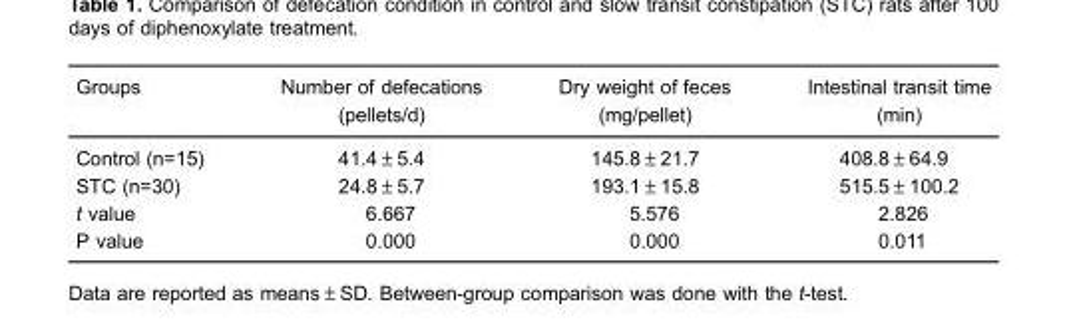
<table><thead><tr><td>Groups</td><td>Number of defecations (pellets/d)</td><td>Dry weight of feces (mg/pellet)</td><td>Intestinal transit time (min)</td></tr></thead><tbody><tr><td>Control (n=15)</td><td>41.4±5.4</td><td>145.8±21.7</td><td>408.8±64.9</td></tr><tr><td>STC (n=30)</td><td>24.8±5.7</td><td>193.1±15.8</td><td>515.5±100.2</td></tr><tr><td>t value</td><td>6.667</td><td>5.576</td><td>2.826</td></tr><tr><td>P value</td><td>0.000</td><td>0.000</td><td>0.011</td></tr></tbody></table>